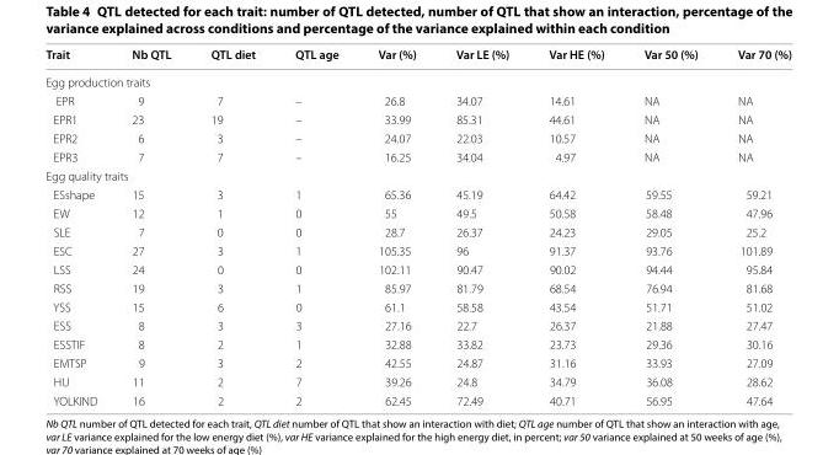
<table><thead><tr><td>Trait</td><td>Nb QTL</td><td>QTL diet</td><td>QTL age</td><td>Var (%)</td><td>Var LE (%)</td><td>Var HE (%)</td><td>Var 50 (%)</td><td>Var 70 (%)</td></tr></thead><tbody><tr><td colspan="9">Egg production traits</td></tr><tr><td>EPR</td><td>9</td><td>7</td><td>–</td><td>26.8</td><td>34.07</td><td>14.61</td><td>NA</td><td>NA</td></tr><tr><td>EPR1</td><td>23</td><td>19</td><td>–</td><td>33.99</td><td>85.31</td><td>44.61</td><td>NA</td><td>NA</td></tr><tr><td>EPR2</td><td>6</td><td>3</td><td>–</td><td>24.07</td><td>22.03</td><td>10.57</td><td>NA</td><td>NA</td></tr><tr><td>EPR3</td><td>7</td><td>7</td><td>–</td><td>16.25</td><td>34.04</td><td>4.97</td><td>NA</td><td>NA</td></tr><tr><td colspan="9">Egg quality traits</td></tr><tr><td>ESshape</td><td>15</td><td>3</td><td>1</td><td>65.36</td><td>45.19</td><td>64.42</td><td>59.55</td><td>59.21</td></tr><tr><td>EW</td><td>12</td><td>1</td><td>0</td><td>55</td><td>49.5</td><td>50.58</td><td>58.48</td><td>47.96</td></tr><tr><td>SLE</td><td>7</td><td>0</td><td>0</td><td>28.7</td><td>26.37</td><td>24.23</td><td>29.05</td><td>25.2</td></tr><tr><td>ESC</td><td>27</td><td>3</td><td>1</td><td>105.35</td><td>96</td><td>91.37</td><td>93.76</td><td>101.89</td></tr><tr><td>LSS</td><td>24</td><td>0</td><td>0</td><td>102.11</td><td>90.47</td><td>90.02</td><td>94.44</td><td>95.84</td></tr><tr><td>RSS</td><td>19</td><td>3</td><td>1</td><td>85.97</td><td>81.79</td><td>68.54</td><td>76.94</td><td>81.68</td></tr><tr><td>YSS</td><td>15</td><td>6</td><td>0</td><td>61.1</td><td>58.58</td><td>43.54</td><td>51.71</td><td>51.02</td></tr><tr><td>ESS</td><td>8</td><td>3</td><td>3</td><td>27.16</td><td>22.7</td><td>26.37</td><td>21.88</td><td>27.47</td></tr><tr><td>ESSTIF</td><td>8</td><td>2</td><td>1</td><td>32.88</td><td>33.82</td><td>23.73</td><td>29.36</td><td>30.16</td></tr><tr><td>EMTSP</td><td>9</td><td>3</td><td>2</td><td>42.55</td><td>24.87</td><td>31.16</td><td>33.93</td><td>27.09</td></tr><tr><td>HU</td><td>11</td><td>2</td><td>7</td><td>39.26</td><td>24.8</td><td>34.79</td><td>36.08</td><td>28.62</td></tr><tr><td>YOLKIND</td><td>16</td><td>2</td><td>2</td><td>62.45</td><td>72.49</td><td>40.71</td><td>56.95</td><td>47.64</td></tr></tbody></table>